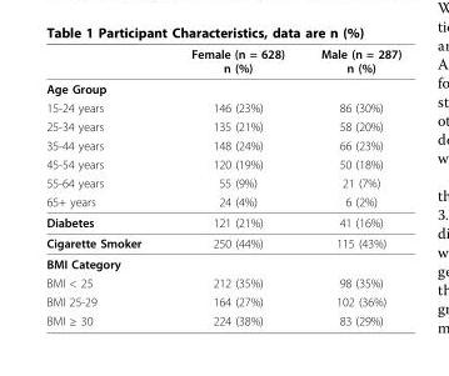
<table><thead><tr><td></td><td>Female (n = 628) n (%)</td><td>Male (n = 287) n (%)</td></tr></thead><tbody><tr><td colspan="3">Age Group</td></tr><tr><td>15-24 years</td><td>146 (23%)</td><td>86 (30%)</td></tr><tr><td>25-34 years</td><td>135 (21%)</td><td>58 (20%)</td></tr><tr><td>35-44 years</td><td>148 (24%)</td><td>66 (23%)</td></tr><tr><td>45-54 years</td><td>120 (19%)</td><td>50 (18%)</td></tr><tr><td>55-64 years</td><td>55 (9%)</td><td>21 (7%)</td></tr><tr><td>65+ years</td><td>24 (4%)</td><td>6 (2%)</td></tr><tr><td>Diabetes</td><td>121 (21%)</td><td>41 (16%)</td></tr><tr><td>Cigarette Smoker</td><td>250 (44%)</td><td>115 (43%)</td></tr><tr><td colspan="3">BMI Category</td></tr><tr><td>BMI &lt; 25</td><td>212 (35%)</td><td>98 (35%)</td></tr><tr><td>BMI 25-29</td><td>164 (27%)</td><td>102 (36%)</td></tr><tr><td>BMI ≥ 30</td><td>224 (38%)</td><td>83 (29%)</td></tr></tbody></table>